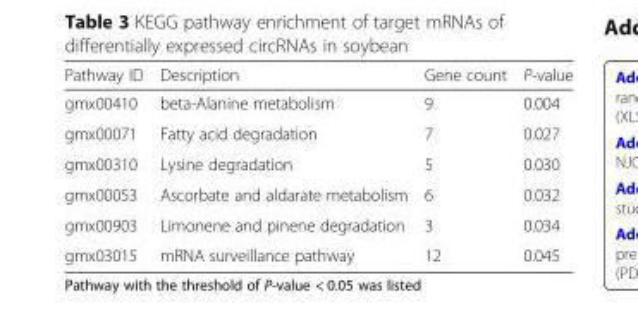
<table><thead><tr><td>Pathway ID</td><td>Description</td><td>Gene count</td><td>P-value</td></tr></thead><tbody><tr><td>gmx00410</td><td>beta-Alanine metabolism</td><td>9</td><td>0.004</td></tr><tr><td>gmx00071</td><td>Fatty acid degradation</td><td>7</td><td>0.027</td></tr><tr><td>gmx00310</td><td>Lysine degradation</td><td>5</td><td>0.030</td></tr><tr><td>gmx00053</td><td>Ascorbate and aldarate metabolism</td><td>6</td><td>0.032</td></tr><tr><td>gmx00903</td><td>Limonene and pinene degradation</td><td>3</td><td>0.034</td></tr><tr><td>gmx03015</td><td>mRNA surveillance pathway</td><td>12</td><td>0.045</td></tr></tbody></table>